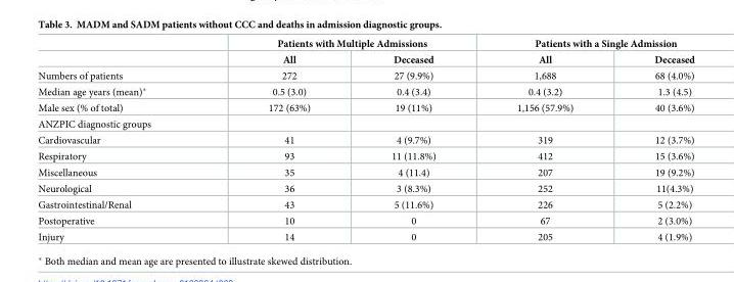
<table><thead><tr><td rowspan="2"></td><td colspan="2">Patients with Multiple Admissions</td><td colspan="2">Patients with a Single Admission</td></tr><tr><td>All</td><td>Deceased</td><td>All</td><td>Deceased</td></tr></thead><tbody><tr><td>Numbers of patients</td><td>272</td><td>27 (9.9%)</td><td>1,688</td><td>68 (4.0%)</td></tr><tr><td>Median age years (mean)*</td><td>0.5 (3.0)</td><td>0.4 (3.4)</td><td>0.4 (3.2)</td><td>1.3 (4.5)</td></tr><tr><td>Male sex (% of total)</td><td>172 (63%)</td><td>19 (11%)</td><td>1,156 (57.9%)</td><td>40 (3.6%)</td></tr><tr><td colspan="5">ANZPIC diagnostic groups</td></tr><tr><td>Cardiovascular</td><td>41</td><td>4 (9.7%)</td><td>319</td><td>12 (3.7%)</td></tr><tr><td>Respiratory</td><td>93</td><td>11 (11.8%)</td><td>412</td><td>15 (3.6%)</td></tr><tr><td>Miscellaneous</td><td>35</td><td>4 (11.4)</td><td>207</td><td>19 (9.2%)</td></tr><tr><td>Neurological</td><td>36</td><td>3 (8.3%)</td><td>252</td><td>11(4.3%)</td></tr><tr><td>Gastrointestinal/Renal</td><td>43</td><td>5 (11.6%)</td><td>226</td><td>5 (2.2%)</td></tr><tr><td>Postoperative</td><td>10</td><td>0</td><td>67</td><td>2 (3.0%)</td></tr><tr><td>Injury</td><td>14</td><td>0</td><td>205</td><td>4 (1.9%)</td></tr></tbody></table>